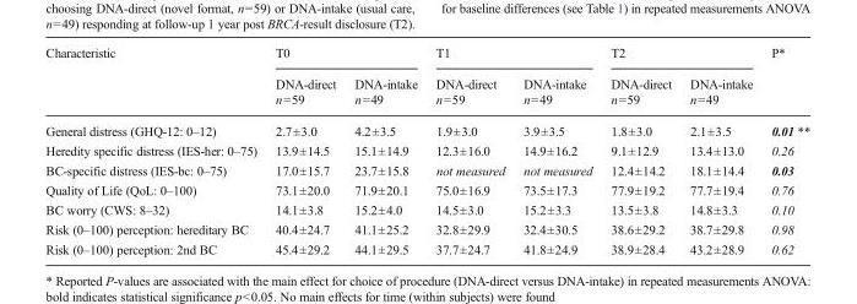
<table><thead><tr><td rowspan="2">Characteristic</td><td colspan="2">T0</td><td colspan="2">T1</td><td colspan="2">T2</td><td rowspan="2">P*</td></tr><tr><td>DNA-direct n=59</td><td>DNA-intake n=49</td><td>DNA-direct n=59</td><td>DNA-intake n=49</td><td>DNA-direct n=59</td><td>DNA-intake n=49</td></tr></thead><tbody><tr><td>General distress (GHQ-12: 0–12)</td><td>2.7±3.0</td><td>4.2±3.5</td><td>1.9±3.0</td><td>3.9±3.5</td><td>1.8±3.0</td><td>2.1±3.5</td><td>0.01 **</td></tr><tr><td>Heredity specific distress (IES-her: 0–75)</td><td>13.9±14.5</td><td>15.1±14.9</td><td>12.3±16.0</td><td>14.9±16.2</td><td>9.1±12.9</td><td>13.4±13.0</td><td>0.26</td></tr><tr><td>BC-specific distress (IES-bc: 0–75)</td><td>17.0±15.7</td><td>23.7±15.8</td><td>not measured</td><td>not measured</td><td>12.4±14.2</td><td>18.1±14.4</td><td>0.03</td></tr><tr><td>Quality of Life (QoL: 0–100)</td><td>73.1±20.0</td><td>71.9±20.1</td><td>75.0±16.9</td><td>73.5±17.3</td><td>77.9±19.2</td><td>77.7±19.4</td><td>0.76</td></tr><tr><td>BC worry (CWS: 8–32)</td><td>14.1±3.8</td><td>15.2±4.0</td><td>14.5±3.0</td><td>15.2±3.3</td><td>13.5±3.8</td><td>14.8±3.3</td><td>0.10</td></tr><tr><td>Risk (0–100) perception: hereditary BC</td><td>40.4±24.7</td><td>41.1±25.2</td><td>32.8±29.9</td><td>32.4±30.5</td><td>38.6±29.2</td><td>38.7±29.8</td><td>0.98</td></tr><tr><td>Risk (0–100) perception: 2nd BC</td><td>45.4±29.2</td><td>44.1±29.5</td><td>37.7±24.7</td><td>41.8±24.9</td><td>38.9±28.4</td><td>43.2±28.9</td><td>0.62</td></tr></tbody></table>